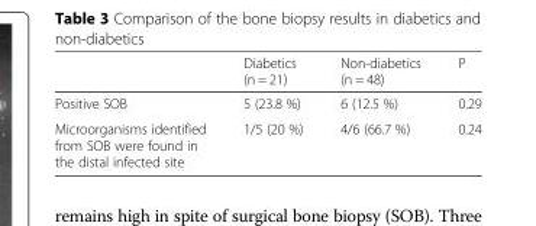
<table><thead><tr><td></td><td>Diabetics (n = 21)</td><td>Non-diabetics (n = 48)</td><td>P</td></tr></thead><tbody><tr><td>Positive SOB</td><td>5 (23.8 %)</td><td>6 (12.5 %)</td><td>0.29</td></tr><tr><td>Microorganisms identified from SOB were found in the distal infected site</td><td>1/5 (20 %)</td><td>4/6 (66.7 %)</td><td>0.24</td></tr></tbody></table>